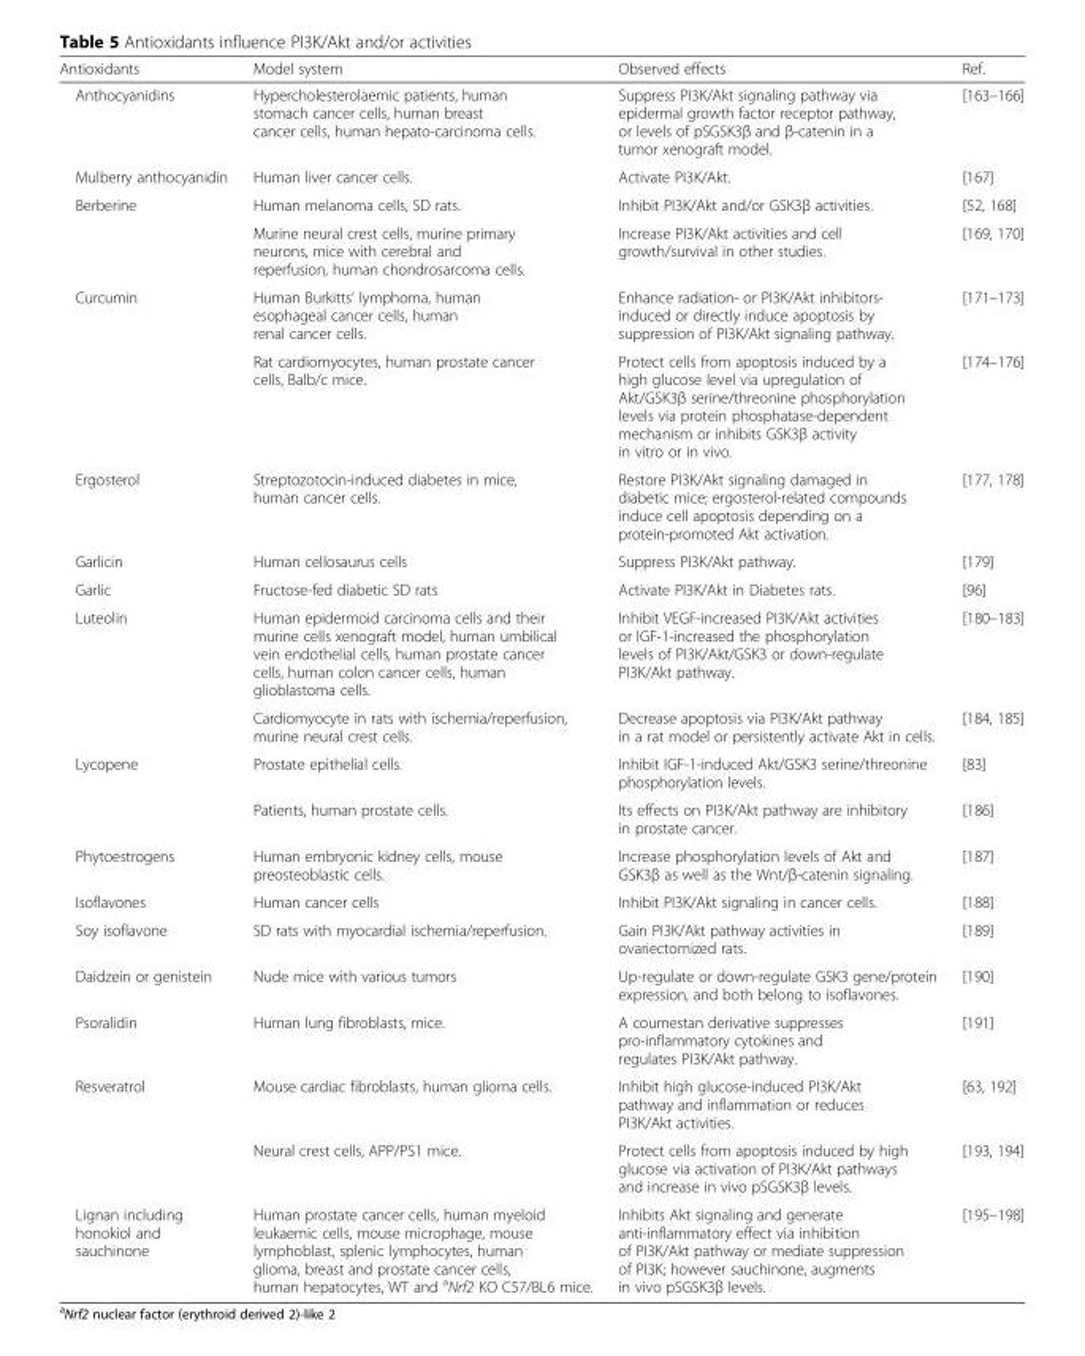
<table><thead><tr><td>Antioxidants</td><td>Model system</td><td>Observed effects</td><td>Ref.</td></tr></thead><tbody><tr><td>Anthocyanidins</td><td>Hypercholesterolaemic patients, human stomach cancer cells, human breast cancer cells, human hepato-carcinoma cells.</td><td>Suppress PI3K/Akt signaling pathway via epidermal growth factor receptor pathway, or levels of pSGSK3β and β-catenin in a tumor xenograft model.</td><td>[163–166]</td></tr><tr><td>Mulberry anthocyanidin</td><td>Human liver cancer cells.</td><td>Activate PI3K/Akt.</td><td>[167]</td></tr><tr><td rowspan="2">Berberine</td><td>Human melanoma cells, SD rats.</td><td>Inhibit PI3K/Akt and/or GSK3β activities.</td><td>[52, 168]</td></tr><tr><td>Murine neural crest cells, murine primary neurons, mice with cerebral and reperfusion, human chondrosarcoma cells.</td><td>Increase PI3K/Akt activities and cell growth/survival in other studies.</td><td>[169, 170]</td></tr><tr><td rowspan="2">Curcumin</td><td>Human Burkitts’ lymphoma, human esophageal cancer cells, human renal cancer cells.</td><td>Enhance radiation- or PI3K/Akt inhibitors- induced or directly induce apoptosis by suppression of PI3K/Akt signaling pathway.</td><td>[171–173]</td></tr><tr><td>Rat cardiomyocytes, human prostate cancer cells, Balb/c mice.</td><td>Protect cells from apoptosis induced by a high glucose level via upregulation of Akt/GSK3β serine/threonine phosphorylation levels via protein phosphatase-dependent mechanism or inhibits GSK3β activity in vitro or in vivo.</td><td>[174–176]</td></tr><tr><td>Ergosterol</td><td>Streptozotocin-induced diabetes in mice, human cancer cells.</td><td>Restore PI3K/Akt signaling damaged in diabetic mice; ergosterol-related compounds induce cell apoptosis depending on a protein-promoted Akt activation.</td><td>[177, 178]</td></tr><tr><td>Garlicin</td><td>Human cellosaurus cells</td><td>Suppress PI3K/Akt pathway.</td><td>[179]</td></tr><tr><td>Garlic</td><td>Fructose-fed diabetic SD rats</td><td>Activate PI3K/Akt in Diabetes rats.</td><td>[96]</td></tr><tr><td rowspan="2">Luteolin</td><td>Human epidermoid carcinoma cells and their murine cells xenograft model, human umbilical vein endothelial cells, human prostate cancer cells, human colon cancer cells, human glioblastoma cells.</td><td>Inhibit VEGF-increased PI3K/Akt activities or IGF-1-increased the phosphorylation levels of PI3K/Akt/GSK3 or down-regulate PI3K/Akt pathway.</td><td>[180–183]</td></tr><tr><td>Cardiomyocyte in rats with ischemia/reperfusion, murine neural crest cells.</td><td>Decrease apoptosis via PI3K/Akt pathway in a rat model or persistently activate Akt in cells.</td><td>[184, 185]</td></tr><tr><td rowspan="2">Lycopene</td><td>Prostate epithelial cells.</td><td>Inhibit IGF-1-induced Akt/GSK3 serine/threonine phosphorylation levels.</td><td>[83]</td></tr><tr><td>Patients, human prostate cells.</td><td>Its effects on PI3K/Akt pathway are inhibitory in prostate cancer.</td><td>[186]</td></tr><tr><td>Phytoestrogens</td><td>Human embryonic kidney cells, mouse preosteoblastic cells.</td><td>Increase phosphorylation levels of Akt and GSK3β as well as the Wnt/β-catenin signaling.</td><td>[187]</td></tr><tr><td>Isoflavones</td><td>Human cancer cells</td><td>Inhibit PI3K/Akt signaling in cancer cells.</td><td>[188]</td></tr><tr><td>Soy isoflavone</td><td>SD rats with myocardial ischemia/reperfusion.</td><td>Gain PI3K/Akt pathway activities in ovariectomized rats.</td><td>[189]</td></tr><tr><td>Daidzein or genistein</td><td>Nude mice with various tumors</td><td>Up-regulate or down-regulate GSK3 gene/protein expression, and both belong to isoflavones.</td><td>[190]</td></tr><tr><td>Psoralidin</td><td>Human lung fibroblasts, mice.</td><td>A coumestan derivative suppresses pro-inflammatory cytokines and regulates PI3K/Akt pathway.</td><td>[191]</td></tr><tr><td rowspan="2">Resveratrol</td><td>Mouse cardiac fibroblasts, human glioma cells.</td><td>Inhibit high glucose-induced PI3K/Akt pathway and inflammation or reduces PI3K/Akt activities.</td><td>[63, 192]</td></tr><tr><td>Neural crest cells, APP/PS1 mice.</td><td>Protect cells from apoptosis induced by high glucose via activation of PI3K/Akt pathways and increase in vivo pSGSK3β levels.</td><td>[193, 194]</td></tr><tr><td>Lignan including honokiol and sauchinone</td><td>Human prostate cancer cells, human myeloid leukaemic cells, mouse microphage, mouse lymphoblast, splenic lymphocytes, human glioma, breast and prostate cancer cells, human hepatocytes, WT and <sup>a</sup>Nrf2 KO C57/BL6 mice.</td><td>Inhibits Akt signaling and generate anti-inflammatory effect via inhibition of PI3K/Akt pathway or mediate suppression of PI3K; however sauchinone, augments in vivo pSGSK3β levels.</td><td>[195–198]</td></tr></tbody></table>